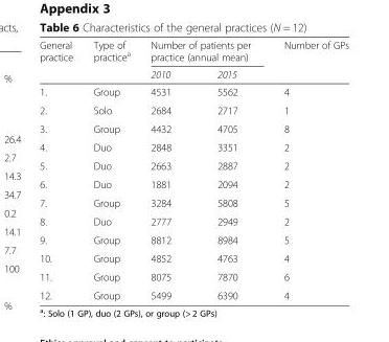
<table><thead><tr><td rowspan="2">General practice</td><td rowspan="2">Type of practice<sup>a</sup></td><td colspan="2">Number of patients per practice (annual mean)</td><td rowspan="2">Number of GPs</td></tr><tr><td>2010</td><td>2015</td></tr></thead><tbody><tr><td>1.</td><td>Group</td><td>4531</td><td>5562</td><td>4</td></tr><tr><td>2.</td><td>Solo</td><td>2684</td><td>2717</td><td>1</td></tr><tr><td>3.</td><td>Group</td><td>4432</td><td>4705</td><td>8</td></tr><tr><td>4.</td><td>Duo</td><td>2848</td><td>3351</td><td>2</td></tr><tr><td>5.</td><td>Duo</td><td>2663</td><td>2887</td><td>2</td></tr><tr><td>6.</td><td>Duo</td><td>1881</td><td>2094</td><td>2</td></tr><tr><td>7.</td><td>Group</td><td>3284</td><td>5808</td><td>5</td></tr><tr><td>8.</td><td>Duo</td><td>2777</td><td>2949</td><td>2</td></tr><tr><td>9.</td><td>Group</td><td>8812</td><td>8984</td><td>5</td></tr><tr><td>10.</td><td>Group</td><td>4852</td><td>4763</td><td>4</td></tr><tr><td>11.</td><td>Group</td><td>8075</td><td>7870</td><td>6</td></tr><tr><td>12.</td><td>Group</td><td>5499</td><td>6390</td><td>4</td></tr></tbody></table>